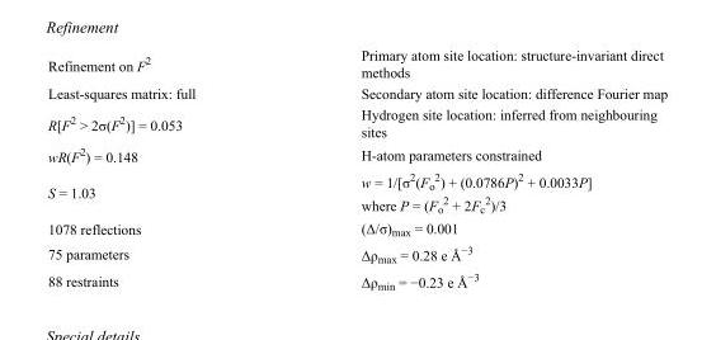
<table><tbody><tr><td>Refinement on F<sup>2</sup></td><td>Primary atom site location: structure-invariant direct methods</td></tr><tr><td>Least-squares matrix: full</td><td>Secondary atom site location: difference Fourier map</td></tr><tr><td>R[F<sup>2</sup> &gt; 2σ(F<sup>2</sup>)] = 0.053</td><td>Hydrogen site location: inferred from neighbouring sites</td></tr><tr><td>wR(F<sup>2</sup>) = 0.148</td><td>H-atom parameters constrained</td></tr><tr><td>S = 1.03</td><td>w = 1/[σ<sup>2</sup>(F<sub>o</sub> <sup>2</sup>) + (0.0786P)<sup>2</sup> + 0.0033P] where P = (F<sub>o</sub> <sup>2</sup> + 2F<sub>c</sub> <sup>2</sup>)/3</td></tr><tr><td>1078 reflections</td><td>(Δ/σ)<sub>max</sub> = 0.001</td></tr><tr><td>75 parameters</td><td>Δρ<sub>max</sub> = 0.28 e Å<sup>−3</sup></td></tr><tr><td>88 restraints</td><td>Δρ<sub>min</sub> = −0.23 e Å<sup>−3</sup></td></tr></tbody></table>